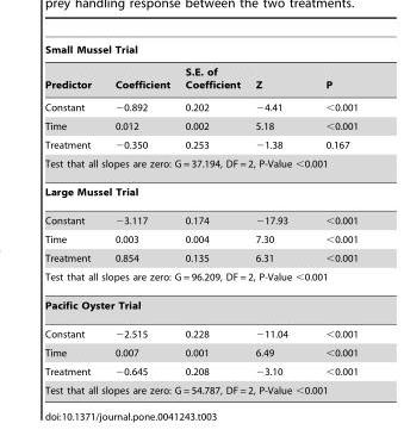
<table><thead><tr><td colspan="5">Small Mussel Trial</td></tr><tr><td>Predictor</td><td>Coefficient</td><td>S.E. of Coefficient</td><td>Z</td><td>P</td></tr></thead><tbody><tr><td>Constant</td><td>−0.892</td><td>0.202</td><td>−4.41</td><td>&lt;0.001</td></tr><tr><td>Time</td><td>0.012</td><td>0.002</td><td>5.18</td><td>&lt;0.001</td></tr><tr><td>Treatment</td><td>−0.350</td><td>0.253</td><td>−1.38</td><td>0.167</td></tr><tr><td colspan="5">Test that all slopes are zero: G = 37.194, DF = 2, P-Value &lt;0.001</td></tr><tr><td colspan="5">Large Mussel Trial</td></tr><tr><td>Constant</td><td>−3.117</td><td>0.174</td><td>−17.93</td><td>&lt;0.001</td></tr><tr><td>Time</td><td>0.003</td><td>0.004</td><td>7.30</td><td>&lt;0.001</td></tr><tr><td>Treatment</td><td>0.854</td><td>0.135</td><td>6.31</td><td>&lt;0.001</td></tr><tr><td colspan="5">Test that all slopes are zero: G = 96.209, DF = 2, P-Value &lt;0.001</td></tr><tr><td colspan="5">Pacific Oyster Trial</td></tr><tr><td>Constant</td><td>−2.515</td><td>0.228</td><td>−11.04</td><td>&lt;0.001</td></tr><tr><td>Time</td><td>0.007</td><td>0.001</td><td>6.49</td><td>&lt;0.001</td></tr><tr><td>Treatment</td><td>−0.645</td><td>0.208</td><td>−3.10</td><td>&lt;0.001</td></tr><tr><td colspan="5">Test that all slopes are zero: G = 54.787, DF = 2, P-Value &lt;0.001</td></tr></tbody></table>